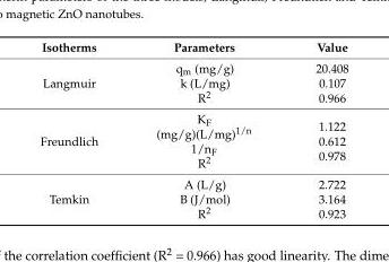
<table><thead><tr><td>Isotherms</td><td>Parameters</td><td>Value</td></tr></thead><tbody><tr><td>Langmuir</td><td>q<sub>m</sub> (mg/g) k (L/mg) R<sup>2</sup></td><td>20.408 0.107 0.966</td></tr><tr><td>Freundlich</td><td>K<sub>F</sub> (mg/g)(L/mg)<sup>1/n</sup> 1/n<sub>F</sub> R<sup>2</sup></td><td>1.122 0.612 0.978</td></tr><tr><td>Temkin</td><td>A (L/g) B (J/mol) R<sup>2</sup></td><td>2.722 3.164 0.923</td></tr></tbody></table>